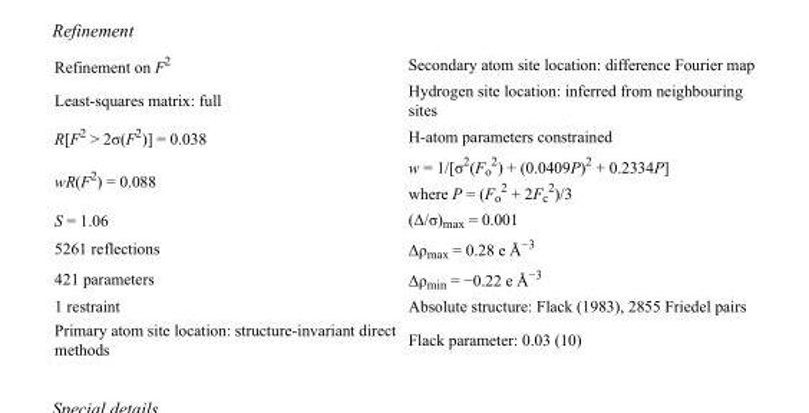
<table><tbody><tr><td>Refinement on F<sup>2</sup></td><td>Secondary atom site location: difference Fourier map</td></tr><tr><td>Least-squares matrix: full</td><td>Hydrogen site location: inferred from neighbouring sites</td></tr><tr><td>R[F<sup>2</sup> &gt; 2σ(F<sup>2</sup>)] = 0.038</td><td>H-atom parameters constrained</td></tr><tr><td>wR(F<sup>2</sup>) = 0.088</td><td>w = 1/[σ<sup>2</sup>(F<sub>o</sub> <sup>2</sup>) + (0.0409P)<sup>2</sup> + 0.2334P] where P = (F<sub>o</sub> <sup>2</sup> + 2F<sub>c</sub> <sup>2</sup>)/3</td></tr><tr><td>S = 1.06</td><td>(Δ/σ)<sub>max</sub> = 0.001</td></tr><tr><td>5261 reflections</td><td>Δρ<sub>max</sub> = 0.28 e Å<sup>−3</sup></td></tr><tr><td>421 parameters</td><td>Δρ<sub>min</sub> = −0.22 e Å<sup>−3</sup></td></tr><tr><td>1 restraint</td><td>Absolute structure: Flack (1983), 2855 Friedel pairs</td></tr><tr><td>Primary atom site location: structure-invariant direct methods</td><td>Flack parameter: 0.03 (10)</td></tr></tbody></table>